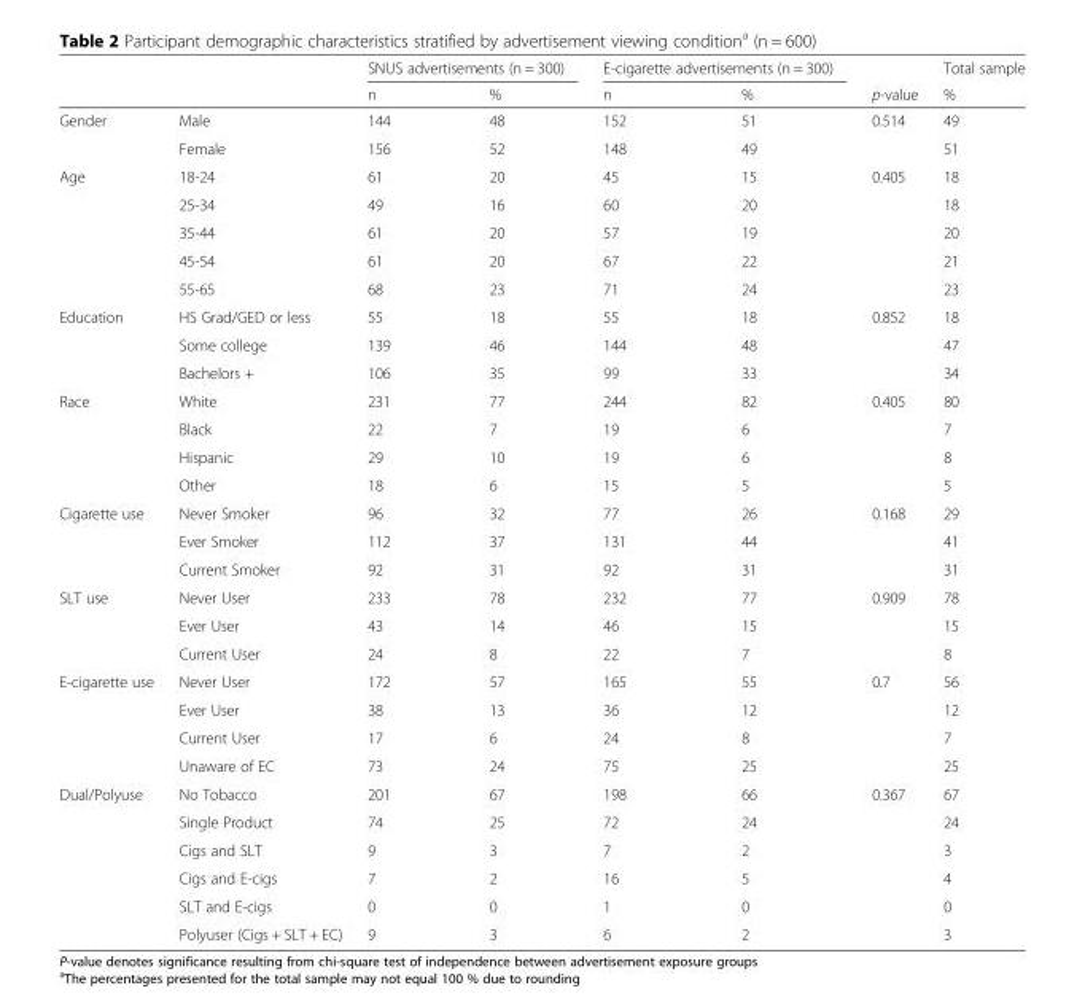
<table><thead><tr><td rowspan="2"></td><td rowspan="2"></td><td colspan="2">SNUS advertisements (n = 300)</td><td colspan="2">E-cigarette advertisements (n = 300)</td><td rowspan="2">p-value</td><td rowspan="2">Total sample %</td></tr><tr><td>n</td><td>%</td><td>n</td><td>%</td></tr></thead><tbody><tr><td rowspan="2">Gender</td><td>Male</td><td>144</td><td>48</td><td>152</td><td>51</td><td rowspan="2">0.514</td><td>49</td></tr><tr><td>Female</td><td>156</td><td>52</td><td>148</td><td>49</td><td>51</td></tr><tr><td rowspan="5">Age</td><td>18-24</td><td>61</td><td>20</td><td>45</td><td>15</td><td rowspan="5">0.405</td><td>18</td></tr><tr><td>25-34</td><td>49</td><td>16</td><td>60</td><td>20</td><td>18</td></tr><tr><td>35-44</td><td>61</td><td>20</td><td>57</td><td>19</td><td>20</td></tr><tr><td>45-54</td><td>61</td><td>20</td><td>67</td><td>22</td><td>21</td></tr><tr><td>55-65</td><td>68</td><td>23</td><td>71</td><td>24</td><td>23</td></tr><tr><td rowspan="3">Education</td><td>HS Grad/GED or less</td><td>55</td><td>18</td><td>55</td><td>18</td><td rowspan="3">0.852</td><td>18</td></tr><tr><td>Some college</td><td>139</td><td>46</td><td>144</td><td>48</td><td>47</td></tr><tr><td>Bachelors +</td><td>106</td><td>35</td><td>99</td><td>33</td><td>34</td></tr><tr><td rowspan="4">Race</td><td>White</td><td>231</td><td>77</td><td>244</td><td>82</td><td rowspan="4">0.405</td><td>80</td></tr><tr><td>Black</td><td>22</td><td>7</td><td>19</td><td>6</td><td>7</td></tr><tr><td>Hispanic</td><td>29</td><td>10</td><td>19</td><td>6</td><td>8</td></tr><tr><td>Other</td><td>18</td><td>6</td><td>15</td><td>5</td><td>5</td></tr><tr><td rowspan="3">Cigarette use</td><td>Never Smoker</td><td>96</td><td>32</td><td>77</td><td>26</td><td rowspan="3">0.168</td><td>29</td></tr><tr><td>Ever Smoker</td><td>112</td><td>37</td><td>131</td><td>44</td><td>41</td></tr><tr><td>Current Smoker</td><td>92</td><td>31</td><td>92</td><td>31</td><td>31</td></tr><tr><td rowspan="3">SLT use</td><td>Never User</td><td>233</td><td>78</td><td>232</td><td>77</td><td rowspan="3">0.909</td><td>78</td></tr><tr><td>Ever User</td><td>43</td><td>14</td><td>46</td><td>15</td><td>15</td></tr><tr><td>Current User</td><td>24</td><td>8</td><td>22</td><td>7</td><td>8</td></tr><tr><td rowspan="4">E-cigarette use</td><td>Never User</td><td>172</td><td>57</td><td>165</td><td>55</td><td rowspan="4">0.7</td><td>56</td></tr><tr><td>Ever User</td><td>38</td><td>13</td><td>36</td><td>12</td><td>12</td></tr><tr><td>Current User</td><td>17</td><td>6</td><td>24</td><td>8</td><td>7</td></tr><tr><td>Unaware of EC</td><td>73</td><td>24</td><td>75</td><td>25</td><td>25</td></tr><tr><td rowspan="6">Dual/Polyuse</td><td>No Tobacco</td><td>201</td><td>67</td><td>198</td><td>66</td><td rowspan="6">0.367</td><td>67</td></tr><tr><td>Single Product</td><td>74</td><td>25</td><td>72</td><td>24</td><td>24</td></tr><tr><td>Cigs and SLT</td><td>9</td><td>3</td><td>7</td><td>2</td><td>3</td></tr><tr><td>Cigs and E-cigs</td><td>7</td><td>2</td><td>16</td><td>5</td><td>4</td></tr><tr><td>SLT and E-cigs</td><td>0</td><td>0</td><td>1</td><td>0</td><td>0</td></tr><tr><td>Polyuser (Cigs + SLT + EC)</td><td>9</td><td>3</td><td>6</td><td>2</td><td>3</td></tr></tbody></table>